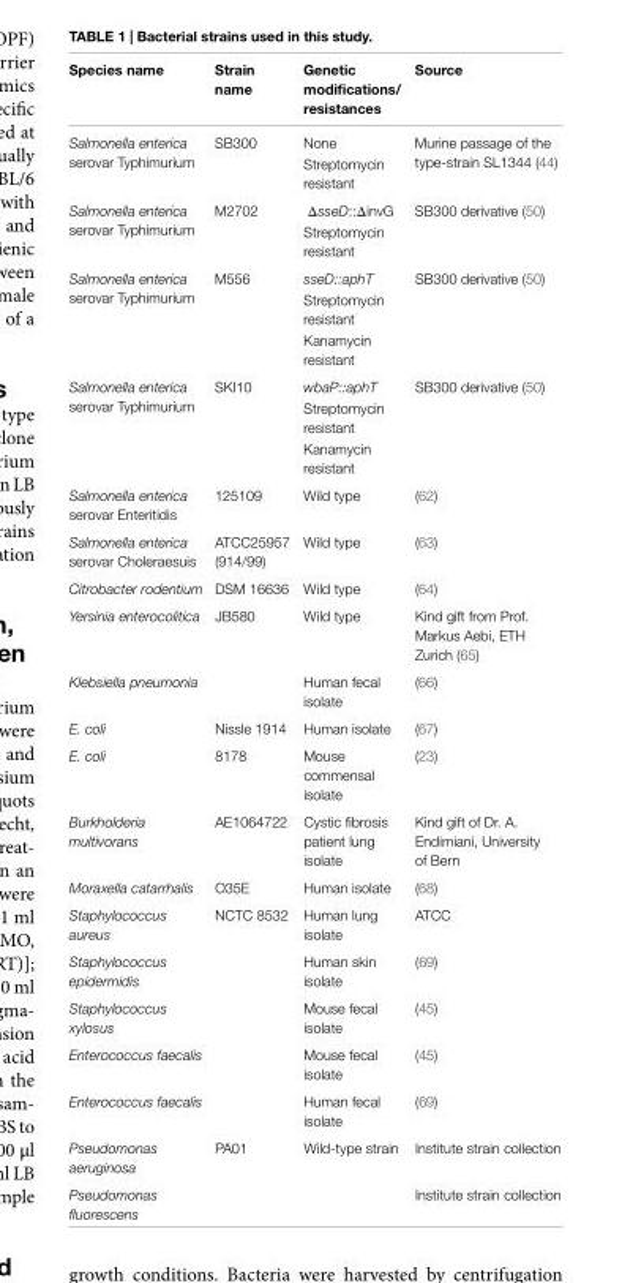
<table><thead><tr><td>species name</td><td>strain name</td><td>genetic modifications/ resistances</td><td>source</td></tr></thead><tbody><tr><td rowspan="2">Salmonella enterica serovar Typhimurium</td><td rowspan="2">SB300</td><td>None</td><td rowspan="2">Murine passage of the type-strain SL1344 (44)</td></tr><tr><td>Streptomycin resistant</td></tr><tr><td rowspan="2">Salmonella enterica serovar Typhimurium</td><td rowspan="2">M2702</td><td>ΔsseD::ΔinvG</td><td rowspan="2">SB300 derivative (50)</td></tr><tr><td>Streptomycin resistant</td></tr><tr><td rowspan="3">Salmonella enterica serovar Typhimurium</td><td rowspan="3">M556</td><td>sseD::aphT</td><td rowspan="3">SB300 derivative (50)</td></tr><tr><td>Streptomycin resistant</td></tr><tr><td>Kanamycin resistant</td></tr><tr><td rowspan="3">Salmonella enterica serovar Typhimurium</td><td rowspan="3">SKI10</td><td>wbaP::aphT</td><td rowspan="3">SB300 derivative (50)</td></tr><tr><td>Streptomycin resistant</td></tr><tr><td>Kanamycin resistant</td></tr><tr><td>Salmonella enterica serovar Enteritidis</td><td>125109</td><td>Wild type</td><td>(62)</td></tr><tr><td>Salmonella enterica serovar Choleraesuis</td><td>ATCC25957 (914/99)</td><td>Wild type</td><td>(63)</td></tr><tr><td>Citrobacter rodentium</td><td>DSM 16636</td><td>Wild type</td><td>(64)</td></tr><tr><td>Yersinia enterocolitica</td><td>JB580</td><td>Wild type</td><td>Kind gift from Prof. Markus Aebi, ETH Zurich (65)</td></tr><tr><td>Klebsiella pneumonia</td><td></td><td>Human fecal isolate</td><td>(66)</td></tr><tr><td>E. coli</td><td>Nissle 1914</td><td>Human isolate</td><td>(67)</td></tr><tr><td>E. coli</td><td>8178</td><td>Mouse commensal isolate</td><td>(23)</td></tr><tr><td>Burkholderia multivorans</td><td>AE1064722</td><td>Cystic fibrosis patient lung isolate</td><td>Kind gift of Dr. A. Endimiani, University of Bern</td></tr><tr><td>Moraxella catarrhalis</td><td>O35E</td><td>Human isolate</td><td>(68)</td></tr><tr><td>Staphylococcus aureus</td><td>NCTC 8532</td><td>Human lung isolate</td><td>ATCC</td></tr><tr><td>Staphylococcus epidermidis</td><td></td><td>Human skin isolate</td><td>(69)</td></tr><tr><td>Staphylococcus xylosus</td><td></td><td>Mouse fecal isolate</td><td>(45)</td></tr><tr><td>Enterococcus faecalis</td><td></td><td>Mouse fecal isolate</td><td>(45)</td></tr><tr><td>Enterococcus faecalis</td><td></td><td>Human fecal isolate</td><td>(69)</td></tr><tr><td>Pseudomonas aeruginosa</td><td>PA01</td><td>Wild-type strain</td><td>Institute strain collection</td></tr><tr><td>Pseudomonas fluorescens</td><td></td><td></td><td>Institute strain collection</td></tr></tbody></table>